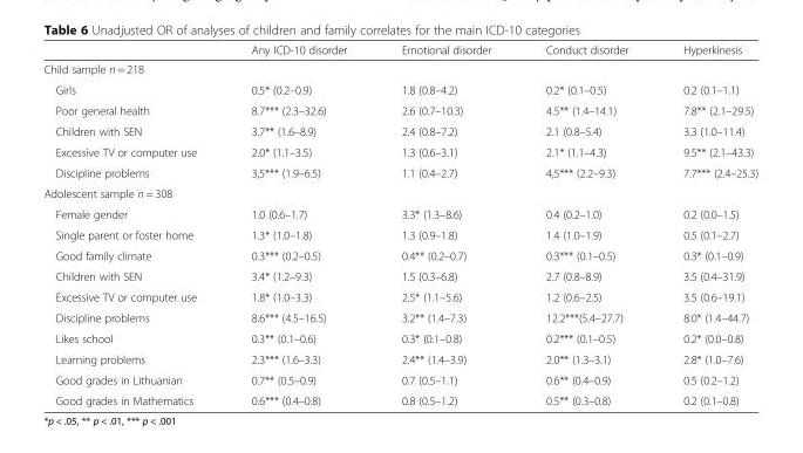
<table><thead><tr><td></td><td>Any ICD-10 disorder</td><td>Emotional disorder</td><td>Conduct disorder</td><td>Hyperkinesis</td></tr></thead><tbody><tr><td colspan="5">Child sample n = 218</td></tr><tr><td>Girls</td><td>0.5* (0.2–0.9)</td><td>1.8 (0.8–4.2)</td><td>0.2* (0.1–0.5)</td><td>0.2 (0.1–1.1)</td></tr><tr><td>Poor general health</td><td>8.7*** (2.3–32.6)</td><td>2.6 (0.7–10.3)</td><td>4.5** (1.4–14.1)</td><td>7.8** (2.1–29.5)</td></tr><tr><td>Children with SEN</td><td>3.7** (1.6–8.9)</td><td>2.4 (0.8–7.2)</td><td>2.1 (0.8–5.4)</td><td>3.3 (1.0–11.4)</td></tr><tr><td>Excessive TV or computer use</td><td>2.0* (1.1–3.5)</td><td>1.3 (0.6–3.1)</td><td>2.1* (1.1–4.3)</td><td>9.5** (2.1–43.3)</td></tr><tr><td>Discipline problems</td><td>3,5*** (1.9–6.5)</td><td>1.1 (0.4–2.7)</td><td>4,5*** (2.2–9.3)</td><td>7.7*** (2.4–25.3)</td></tr><tr><td colspan="5">Adolescent sample n = 308</td></tr><tr><td>Female gender</td><td>1.0 (0.6–1.7)</td><td>3.3* (1.3–8.6)</td><td>0.4 (0.2–1.0)</td><td>0.2 (0.0–1.5)</td></tr><tr><td>Single parent or foster home</td><td>1.3* (1.0–1.8)</td><td>1.3 (0.9–1.8)</td><td>1.4 (1.0–1.9)</td><td>0.5 (0.1–2.7)</td></tr><tr><td>Good family climate</td><td>0.3*** (0.2–0.5)</td><td>0.4** (0.2–0.7)</td><td>0.3*** (0.1–0.5)</td><td>0.3* (0.1–0.9)</td></tr><tr><td>Children with SEN</td><td>3.4* (1.2–9.3)</td><td>1.5 (0.3–6.8)</td><td>2.7 (0.8–8.9)</td><td>3.5 (0.4–31.9)</td></tr><tr><td>Excessive TV or computer use</td><td>1.8* (1.0–3.3)</td><td>2.5* (1.1–5.6)</td><td>1.2 (0.6–2.5)</td><td>3.5 (0.6–19.1)</td></tr><tr><td>Discipline problems</td><td>8.6*** (4.5–16.5)</td><td>3.2** (1.4–7.3)</td><td>12.2***(5.4–27.7)</td><td>8.0* (1.4–44.7)</td></tr><tr><td>Likes school</td><td>0.3** (0.1–0.6)</td><td>0.3* (0.1–0.8)</td><td>0.2*** (0.1–0.5)</td><td>0.2* (0.0–0.8)</td></tr><tr><td>Learning problems</td><td>2.3*** (1.6–3.3)</td><td>2.4** (1.4–3.9)</td><td>2.0** (1.3–3.1)</td><td>2.8* (1.0–7.6)</td></tr><tr><td>Good grades in Lithuanian</td><td>0.7** (0.5–0.9)</td><td>0.7 (0.5–1.1)</td><td>0.6** (0.4–0.9)</td><td>0.5 (0.2–1.2)</td></tr><tr><td>Good grades in Mathematics</td><td>0.6*** (0.4–0.8)</td><td>0.8 (0.5–1.2)</td><td>0.5** (0.3–0.8)</td><td>0.2 (0.1–0.8)</td></tr></tbody></table>